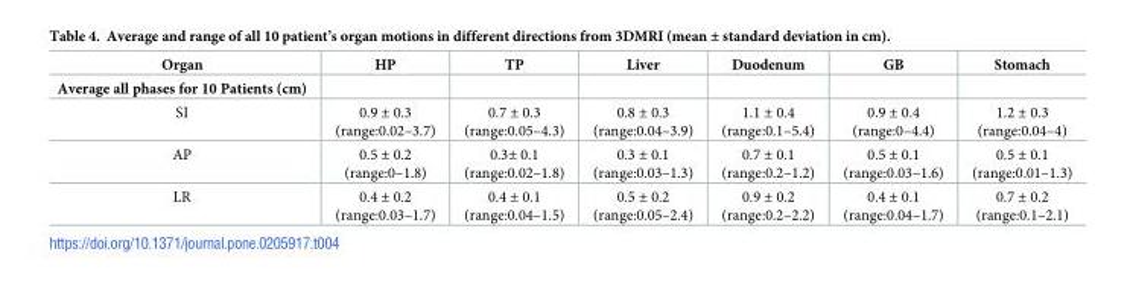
<table><thead><tr><td rowspan="2">Organ Average all phases for 10 Patients (cm)</td><td rowspan="2">HP</td><td rowspan="2">TP</td><td rowspan="2">Liver</td><td rowspan="2">Duodenum</td><td rowspan="2">GB</td><td rowspan="2">Stomach</td></tr><tr></tr></thead><tbody><tr><td>SI</td><td>0.9 ± 0.3 (range:0.02–3.7)</td><td>0.7 ± 0.3 (range:0.05–4.3)</td><td>0.8 ± 0.3 (range:0.04–3.9)</td><td>1.1 ± 0.4 (range:0.1–5.4)</td><td>0.9 ± 0.4 (range:0–4.4)</td><td>1.2 ± 0.3 (range:0.04–4)</td></tr><tr><td>AP</td><td>0.5 ± 0.2 (range:0–1.8)</td><td>0.3± 0.1 (range:0.02–1.8)</td><td>0.3 ± 0.1 (range:0.03–1.3)</td><td>0.7 ± 0.1 (range:0.2–1.2)</td><td>0.5 ± 0.1 (range:0.03–1.6)</td><td>0.5 ± 0.1 (range:0.01–1.3)</td></tr><tr><td>LR</td><td>0.4 ± 0.2 (range:0.03–1.7)</td><td>0.4 ± 0.1 (range:0.04–1.5)</td><td>0.5 ± 0.2 (range:0.05–2.4)</td><td>0.9 ± 0.2 (range:0.2–2.2)</td><td>0.4 ± 0.1 (range:0.04–1.7)</td><td>0.7 ± 0.2 (range:0.1–2.1)</td></tr></tbody></table>